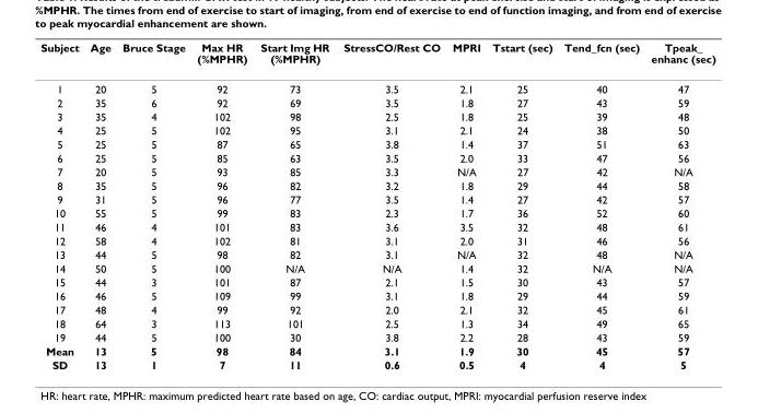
<table><thead><tr><td>Subject</td><td>Age</td><td>Bruce Stage</td><td>Max HR (%MPHR)</td><td>Start Img HR (%MPHR)</td><td>StressCO/Rest CO</td><td>MPRI</td><td>Tstart (sec)</td><td>Tend_fcn (sec)</td><td>Tpeak_ enhanc (sec)</td></tr></thead><tbody><tr><td>1</td><td>20</td><td>5</td><td>92</td><td>73</td><td>3.5</td><td>2.1</td><td>25</td><td>40</td><td>47</td></tr><tr><td>2</td><td>35</td><td>6</td><td>92</td><td>69</td><td>3.5</td><td>1.8</td><td>27</td><td>43</td><td>59</td></tr><tr><td>3</td><td>35</td><td>4</td><td>102</td><td>98</td><td>2.5</td><td>1.8</td><td>25</td><td>39</td><td>48</td></tr><tr><td>4</td><td>25</td><td>5</td><td>102</td><td>95</td><td>3.1</td><td>2.1</td><td>24</td><td>38</td><td>50</td></tr><tr><td>5</td><td>25</td><td>5</td><td>87</td><td>65</td><td>3.8</td><td>1.4</td><td>37</td><td>51</td><td>63</td></tr><tr><td>6</td><td>25</td><td>5</td><td>85</td><td>63</td><td>3.5</td><td>2.0</td><td>33</td><td>47</td><td>56</td></tr><tr><td>7</td><td>20</td><td>5</td><td>93</td><td>85</td><td>3.3</td><td>N/A</td><td>27</td><td>42</td><td>N/A</td></tr><tr><td>8</td><td>35</td><td>5</td><td>96</td><td>82</td><td>3.2</td><td>1.8</td><td>29</td><td>44</td><td>58</td></tr><tr><td>9</td><td>31</td><td>5</td><td>96</td><td>77</td><td>3.5</td><td>1.4</td><td>27</td><td>42</td><td>57</td></tr><tr><td>10</td><td>55</td><td>5</td><td>99</td><td>83</td><td>2.3</td><td>1.7</td><td>36</td><td>52</td><td>60</td></tr><tr><td>11</td><td>46</td><td>4</td><td>101</td><td>83</td><td>3.6</td><td>3.5</td><td>32</td><td>48</td><td>61</td></tr><tr><td>12</td><td>58</td><td>4</td><td>102</td><td>81</td><td>3.1</td><td>2.0</td><td>31</td><td>46</td><td>56</td></tr><tr><td>13</td><td>44</td><td>5</td><td>98</td><td>82</td><td>3.1</td><td>N/A</td><td>32</td><td>48</td><td>N/A</td></tr><tr><td>14</td><td>50</td><td>5</td><td>100</td><td>N/A</td><td>N/A</td><td>1.4</td><td>32</td><td>N/A</td><td>N/A</td></tr><tr><td>15</td><td>44</td><td>3</td><td>101</td><td>87</td><td>2.1</td><td>1.5</td><td>30</td><td>43</td><td>57</td></tr><tr><td>16</td><td>46</td><td>5</td><td>109</td><td>99</td><td>3.1</td><td>1.8</td><td>29</td><td>44</td><td>59</td></tr><tr><td>17</td><td>48</td><td>4</td><td>99</td><td>92</td><td>2.0</td><td>2.1</td><td>32</td><td>45</td><td>61</td></tr><tr><td>18</td><td>64</td><td>3</td><td>113</td><td>101</td><td>2.5</td><td>1.3</td><td>34</td><td>49</td><td>65</td></tr><tr><td>19</td><td>44</td><td>5</td><td>100</td><td>30</td><td>3.8</td><td>2.2</td><td>28</td><td>43</td><td>59</td></tr><tr><td>Mean</td><td>13</td><td>5</td><td>98</td><td>84</td><td>3.1</td><td>1.9</td><td>30</td><td>45</td><td>57</td></tr><tr><td>SD</td><td>13</td><td>1</td><td>7</td><td>11</td><td>0.6</td><td>0.5</td><td>4</td><td>4</td><td>5</td></tr></tbody></table>